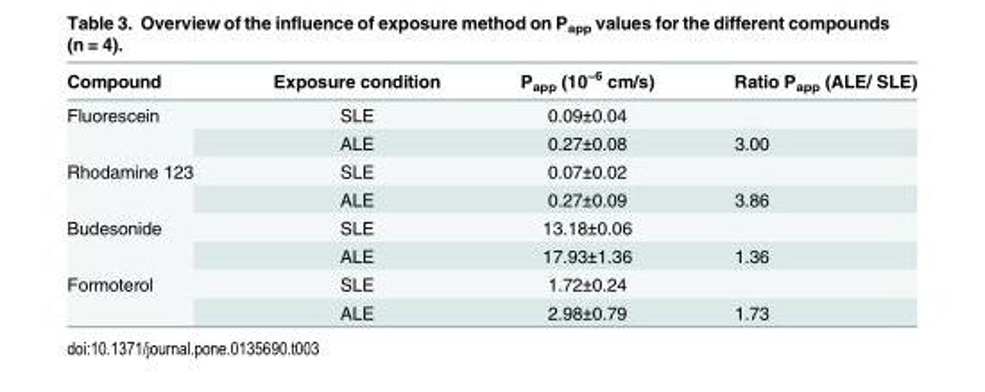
<table><thead><tr><td>Compound</td><td>Exposure condition</td><td>P<sub>app</sub> (10<sup>−6</sup> cm/s)</td><td>Ratio P<sub>app</sub> (ALE/ SLE)</td></tr></thead><tbody><tr><td rowspan="2">Fluorescein</td><td>SLE</td><td>0.09±0.04</td><td></td></tr><tr><td>ALE</td><td>0.27±0.08</td><td>3.00</td></tr><tr><td rowspan="2">Rhodamine 123</td><td>SLE</td><td>0.07±0.02</td><td></td></tr><tr><td>ALE</td><td>0.27±0.09</td><td>3.86</td></tr><tr><td rowspan="2">Budesonide</td><td>SLE</td><td>13.18±0.06</td><td></td></tr><tr><td>ALE</td><td>17.93±1.36</td><td>1.36</td></tr><tr><td rowspan="2">Formoterol</td><td>SLE</td><td>1.72±0.24</td><td></td></tr><tr><td>ALE</td><td>2.98±0.79</td><td>1.73</td></tr></tbody></table>